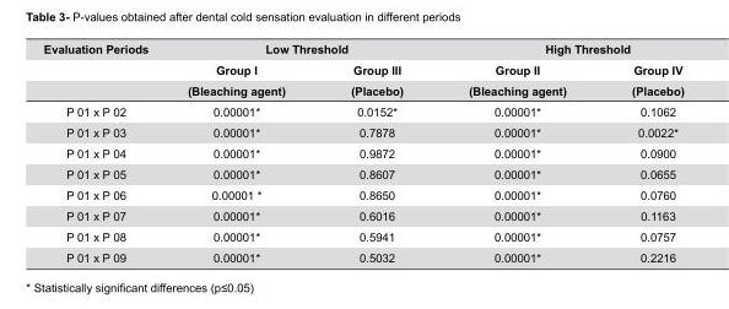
<table><thead><tr><td rowspan="3">Evaluation Periods</td><td colspan="2">Low Threshold</td><td colspan="2">High Threshold</td></tr><tr><td rowspan="2">Group I (Bleaching agent)</td><td rowspan="2">Group III (Placebo)</td><td rowspan="2">Group II (Bleaching agent)</td><td rowspan="2">Group IV (Placebo)</td></tr><tr></tr></thead><tbody><tr><td>P 01 x P 02</td><td>0.00001*</td><td>0.0152*</td><td>0.00001*</td><td>0.1062</td></tr><tr><td>P 01 x P 03</td><td>0.00001*</td><td>0.7878</td><td>0.00001*</td><td>0.0022*</td></tr><tr><td>P 01 x P 04</td><td>0.00001*</td><td>0.9872</td><td>0.00001*</td><td>0.0900</td></tr><tr><td>P 01 x P 05</td><td>0.00001*</td><td>0.8607</td><td>0.00001*</td><td>0.0655</td></tr><tr><td>P 01 x P 06</td><td>0.00001 *</td><td>0.8650</td><td>0.00001*</td><td>0.0760</td></tr><tr><td>P 01 x P 07</td><td>0.00001*</td><td>0.6016</td><td>0.00001*</td><td>0.1163</td></tr><tr><td>P 01 x P 08</td><td>0.00001*</td><td>0.5941</td><td>0.00001*</td><td>0.0757</td></tr><tr><td>P 01 x P 09</td><td>0.00001*</td><td>0.5032</td><td>0.00001*</td><td>0.2216</td></tr></tbody></table>